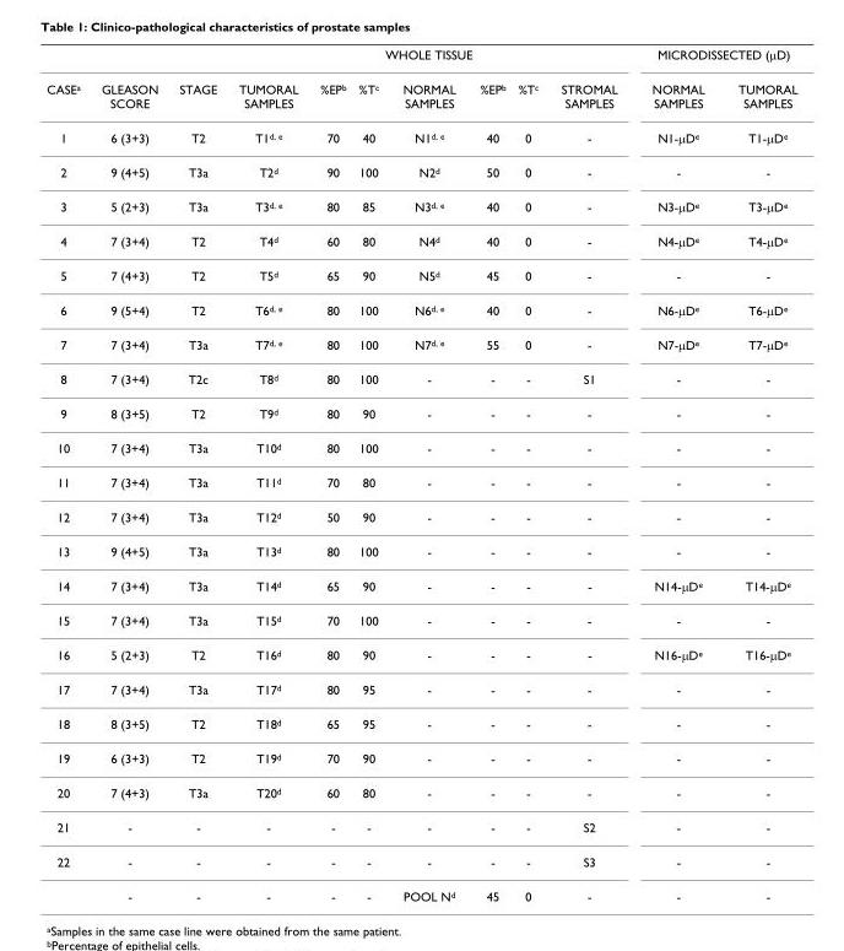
<table><thead><tr><td rowspan="2">CASE<sup>a</sup></td><td rowspan="2">GLEASON SCORE</td><td rowspan="2">STAGE</td><td colspan="7">WHOLE TISSUE</td><td colspan="2">MICRODISSECTED (μD)</td></tr><tr><td>TUMORAL SAMPLES</td><td>%EP<sup>b</sup></td><td>%T<sup>c</sup></td><td>NORMAL SAMPLES</td><td>%EP<sup>b</sup></td><td>%T<sup>c</sup></td><td>STROMAL SAMPLES</td><td>NORMAL SAMPLES</td><td>TUMORAL SAMPLES</td></tr></thead><tbody><tr><td>1</td><td>6 (3+3)</td><td>T2</td><td>T1<sup>d, e</sup></td><td>70</td><td>40</td><td>N1<sup>d, e</sup></td><td>40</td><td>0</td><td>-</td><td>N1-μD<sup>e</sup></td><td>T1-μD<sup>e</sup></td></tr><tr><td>2</td><td>9 (4+5)</td><td>T3a</td><td>T2<sup>d</sup></td><td>90</td><td>100</td><td>N2<sup>d</sup></td><td>50</td><td>0</td><td>-</td><td>-</td><td>-</td></tr><tr><td>3</td><td>5 (2+3)</td><td>T3a</td><td>T3<sup>d, e</sup></td><td>80</td><td>85</td><td>N3<sup>d, e</sup></td><td>40</td><td>0</td><td>-</td><td>N3-μD<sup>e</sup></td><td>T3-μD<sup>e</sup></td></tr><tr><td>4</td><td>7 (3+4)</td><td>T2</td><td>T4<sup>d</sup></td><td>60</td><td>80</td><td>N4<sup>d</sup></td><td>40</td><td>0</td><td>-</td><td>N4-μD<sup>e</sup></td><td>T4-μD<sup>e</sup></td></tr><tr><td>5</td><td>7 (4+3)</td><td>T2</td><td>T5<sup>d</sup></td><td>65</td><td>90</td><td>N5<sup>d</sup></td><td>45</td><td>0</td><td>-</td><td>-</td><td>-</td></tr><tr><td>6</td><td>9 (5+4)</td><td>T2</td><td>T6<sup>d, e</sup></td><td>80</td><td>100</td><td>N6<sup>d, e</sup></td><td>40</td><td>0</td><td>-</td><td>N6-μD<sup>e</sup></td><td>T6-μD<sup>e</sup></td></tr><tr><td>7</td><td>7 (3+4)</td><td>T3a</td><td>T7<sup>d, e</sup></td><td>80</td><td>100</td><td>N7<sup>d, e</sup></td><td>55</td><td>0</td><td>-</td><td>N7-μD<sup>e</sup></td><td>T7-μD<sup>e</sup></td></tr><tr><td>8</td><td>7 (3+4)</td><td>T2c</td><td>T8<sup>d</sup></td><td>80</td><td>100</td><td>-</td><td>-</td><td>-</td><td>S1</td><td>-</td><td>-</td></tr><tr><td>9</td><td>8 (3+5)</td><td>T2</td><td>T9<sup>d</sup></td><td>80</td><td>90</td><td>-</td><td>-</td><td>-</td><td>-</td><td>-</td><td>-</td></tr><tr><td>10</td><td>7 (3+4)</td><td>T3a</td><td>T10<sup>d</sup></td><td>80</td><td>100</td><td>-</td><td>-</td><td>-</td><td>-</td><td>-</td><td>-</td></tr><tr><td>11</td><td>7 (3+4)</td><td>T3a</td><td>T11<sup>d</sup></td><td>70</td><td>80</td><td>-</td><td>-</td><td>-</td><td>-</td><td>-</td><td>-</td></tr><tr><td>12</td><td>7 (3+4)</td><td>T3a</td><td>T12<sup>d</sup></td><td>50</td><td>90</td><td>-</td><td>-</td><td>-</td><td>-</td><td>-</td><td>-</td></tr><tr><td>13</td><td>9 (4+5)</td><td>T3a</td><td>T13<sup>d</sup></td><td>80</td><td>100</td><td>-</td><td>-</td><td>-</td><td>-</td><td>-</td><td>-</td></tr><tr><td>14</td><td>7 (3+4)</td><td>T3a</td><td>T14<sup>d</sup></td><td>65</td><td>90</td><td>-</td><td>-</td><td>-</td><td>-</td><td>N14-μD<sup>e</sup></td><td>T14-μD<sup>e</sup></td></tr><tr><td>15</td><td>7 (3+4)</td><td>T3a</td><td>T15<sup>d</sup></td><td>70</td><td>100</td><td>-</td><td>-</td><td>-</td><td>-</td><td>-</td><td>-</td></tr><tr><td>16</td><td>5 (2+3)</td><td>T2</td><td>T16<sup>d</sup></td><td>80</td><td>90</td><td>-</td><td>-</td><td>-</td><td>-</td><td>N16-μD<sup>e</sup></td><td>T16-μD<sup>e</sup></td></tr><tr><td>17</td><td>7 (3+4)</td><td>T3a</td><td>T17<sup>d</sup></td><td>80</td><td>95</td><td>-</td><td>-</td><td>-</td><td>-</td><td>-</td><td>-</td></tr><tr><td>18</td><td>8 (3+5)</td><td>T2</td><td>T18<sup>d</sup></td><td>65</td><td>95</td><td>-</td><td>-</td><td>-</td><td>-</td><td>-</td><td>-</td></tr><tr><td>19</td><td>6 (3+3)</td><td>T2</td><td>T19<sup>d</sup></td><td>70</td><td>90</td><td>-</td><td>-</td><td>-</td><td>-</td><td>-</td><td>-</td></tr><tr><td>20</td><td>7 (4+3)</td><td>T3a</td><td>T20<sup>d</sup></td><td>60</td><td>80</td><td>-</td><td>-</td><td>-</td><td>-</td><td>-</td><td>-</td></tr><tr><td>21</td><td>-</td><td>-</td><td>-</td><td>-</td><td>-</td><td>-</td><td>-</td><td>-</td><td>S2</td><td>-</td><td>-</td></tr><tr><td rowspan="2">22</td><td>-</td><td>-</td><td>-</td><td>-</td><td>-</td><td>-</td><td>-</td><td>-</td><td>S3</td><td>-</td><td>-</td></tr><tr><td>-</td><td>-</td><td>-</td><td>-</td><td>-</td><td>POOL N<sup>d</sup></td><td>45</td><td>0</td><td>-</td><td>-</td><td>-</td></tr></tbody></table>